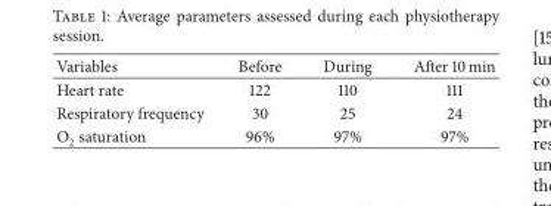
<table><thead><tr><td>Variables</td><td>Before</td><td>During</td><td>After 10 min</td></tr></thead><tbody><tr><td>Heart rate</td><td>122</td><td>110</td><td>111</td></tr><tr><td>Respiratory frequency</td><td>30</td><td>25</td><td>24</td></tr><tr><td>O<sub>2</sub> saturation</td><td>96%</td><td>97%</td><td>97%</td></tr></tbody></table>